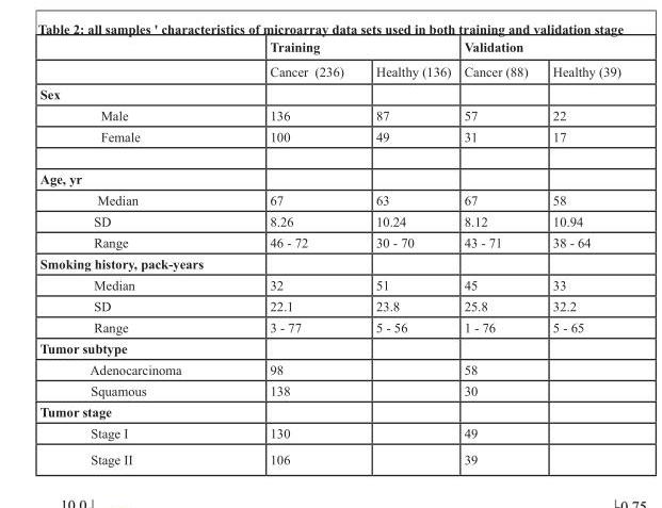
<table><thead><tr><td rowspan="2"></td><td colspan="2">Training</td><td colspan="2">Validation</td></tr><tr><td>Cancer (236)</td><td>Healthy (136)</td><td>Cancer (88)</td><td>Healthy (39)</td></tr></thead><tbody><tr><td colspan="5">Sex</td></tr><tr><td>Male</td><td>136</td><td>87</td><td>57</td><td>22</td></tr><tr><td>Female</td><td>100</td><td>49</td><td>31</td><td>17</td></tr><tr><td colspan="5">Age, yr</td></tr><tr><td>Median</td><td>67</td><td>63</td><td>67</td><td>58</td></tr><tr><td>SD</td><td>8.26</td><td>10.24</td><td>8.12</td><td>10.94</td></tr><tr><td>Range</td><td>46 - 72</td><td>30 - 70</td><td>43 - 71</td><td>38 - 64</td></tr><tr><td colspan="5">Smoking history, pack-years</td></tr><tr><td>Median</td><td>32</td><td>51</td><td>45</td><td>33</td></tr><tr><td>SD</td><td>22.1</td><td>23.8</td><td>25.8</td><td>32.2</td></tr><tr><td>Range</td><td>3 - 77</td><td>5 - 56</td><td>1 - 76</td><td>5 - 65</td></tr><tr><td colspan="5">Tumor subtype</td></tr><tr><td>Adenocarcinoma</td><td>98</td><td></td><td>58</td><td></td></tr><tr><td>Squamous</td><td>138</td><td></td><td>30</td><td></td></tr><tr><td colspan="5">Tumor stage</td></tr><tr><td>Stage I</td><td>130</td><td></td><td>49</td><td></td></tr><tr><td>Stage II</td><td>106</td><td></td><td>39</td><td></td></tr></tbody></table>